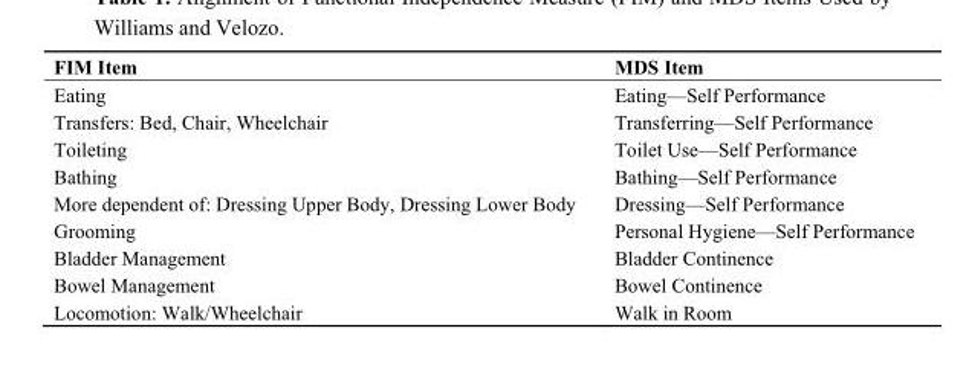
<table><thead><tr><td>FIM Item</td><td>MDS Item</td></tr></thead><tbody><tr><td>Eating</td><td>Eating—Self Performance</td></tr><tr><td>Transfers: Bed, Chair, Wheelchair</td><td>Transferring—Self Performance</td></tr><tr><td>Toileting</td><td>Toilet Use—Self Performance</td></tr><tr><td>Bathing</td><td>Bathing—Self Performance</td></tr><tr><td>More dependent of: Dressing Upper Body, Dressing Lower Body</td><td>Dressing—Self Performance</td></tr><tr><td>Grooming</td><td>Personal Hygiene—Self Performance</td></tr><tr><td>Bladder Management</td><td>Bladder Continence</td></tr><tr><td>Bowel Management</td><td>Bowel Continence</td></tr><tr><td>Locomotion: Walk/Wheelchair</td><td>Walk in Room</td></tr></tbody></table>